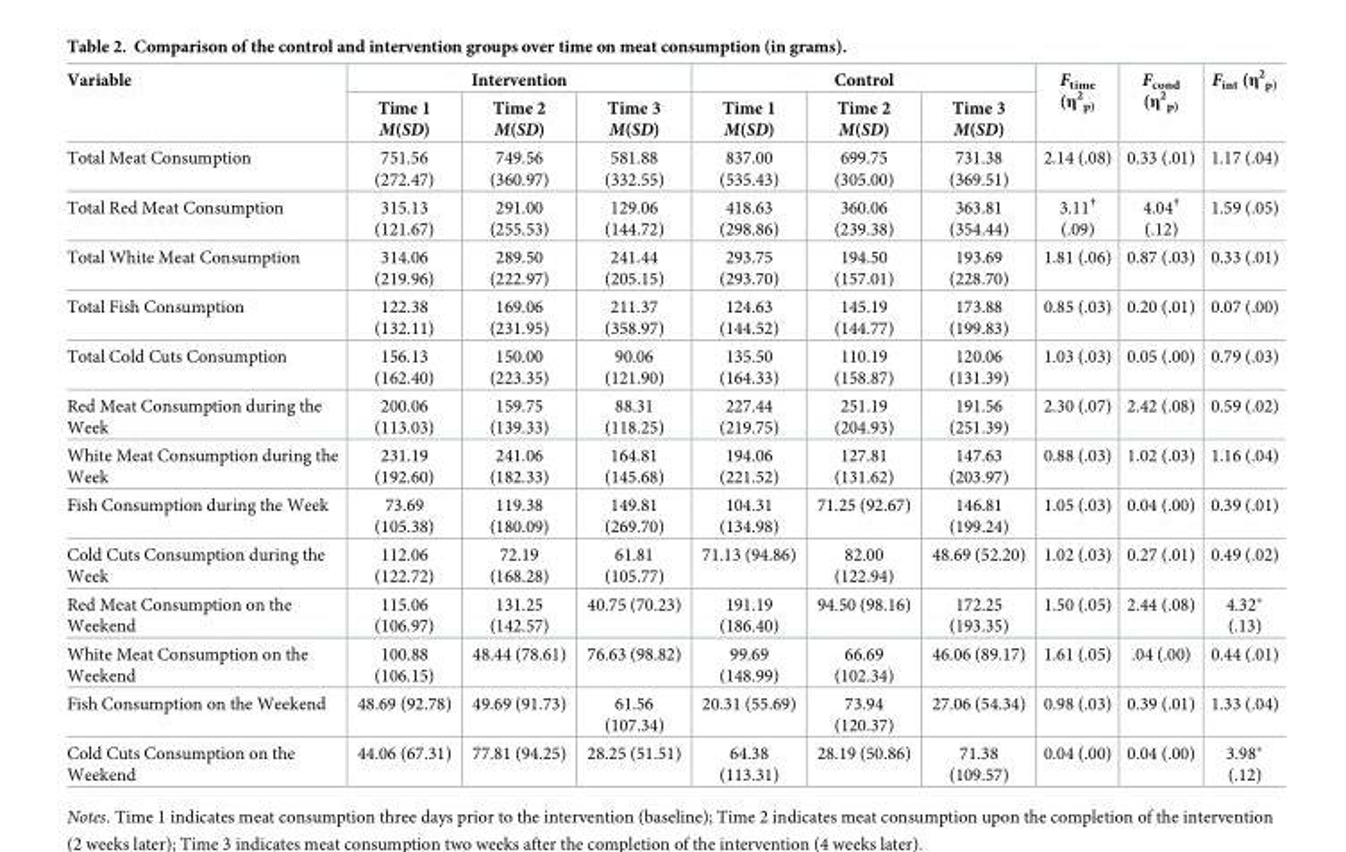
<table><thead><tr><td rowspan="2">Variable</td><td colspan="3">Intervention</td><td colspan="3">Control</td><td rowspan="2">F<sub>time</sub> (η<sup>2</sup> <sub>p)</sub></td><td rowspan="2">F<sub>cond</sub> (η<sup>2</sup> <sub>p)</sub></td><td rowspan="2">F<sub>int</sub> (η<sup>2</sup> <sub>p)</sub></td></tr><tr><td>Time 1 M(SD)</td><td>Time 2 M(SD)</td><td>Time 3 M(SD)</td><td>Time 1 M(SD)</td><td>Time 2 M(SD)</td><td>Time 3 M(SD)</td></tr></thead><tbody><tr><td>Total Meat Consumption</td><td>751.56 (272.47)</td><td>749.56 (360.97)</td><td>581.88 (332.55)</td><td>837.00 (535.43)</td><td>699.75 (305.00)</td><td>731.38 (369.51)</td><td>2.14 (.08)</td><td>0.33 (.01)</td><td>1.17 (.04)</td></tr><tr><td>Total Red Meat Consumption</td><td>315.13 (121.67)</td><td>291.00 (255.53)</td><td>129.06 (144.72)</td><td>418.63 (298.86)</td><td>360.06 (239.38)</td><td>363.81 (354.44)</td><td>3.11<sup>†</sup> (.09)</td><td>4.04<sup>†</sup> (.12)</td><td>1.59 (.05)</td></tr><tr><td>Total White Meat Consumption</td><td>314.06 (219.96)</td><td>289.50 (222.97)</td><td>241.44 (205.15)</td><td>293.75 (293.70)</td><td>194.50 (157.01)</td><td>193.69 (228.70)</td><td>1.81 (.06)</td><td>0.87 (.03)</td><td>0.33 (.01)</td></tr><tr><td>Total Fish Consumption</td><td>122.38 (132.11)</td><td>169.06 (231.95)</td><td>211.37 (358.97)</td><td>124.63 (144.52)</td><td>145.19 (144.77)</td><td>173.88 (199.83)</td><td>0.85 (.03)</td><td>0.20 (.01)</td><td>0.07 (.00)</td></tr><tr><td>Total Cold Cuts Consumption</td><td>156.13 (162.40)</td><td>150.00 (223.35)</td><td>90.06 (121.90)</td><td>135.50 (164.33)</td><td>110.19 (158.87)</td><td>120.06 (131.39)</td><td>1.03 (.03)</td><td>0.05 (.00)</td><td>0.79 (.03)</td></tr><tr><td>Red Meat Consumption during the Week</td><td>200.06 (113.03)</td><td>159.75 (139.33)</td><td>88.31 (118.25)</td><td>227.44 (219.75)</td><td>251.19 (204.93)</td><td>191.56 (251.39)</td><td>2.30 (.07)</td><td>2.42 (.08)</td><td>0.59 (.02)</td></tr><tr><td>White Meat Consumption during the Week</td><td>231.19 (192.60)</td><td>241.06 (182.33)</td><td>164.81 (145.68)</td><td>194.06 (221.52)</td><td>127.81 (131.62)</td><td>147.63 (203.97)</td><td>0.88 (.03)</td><td>1.02 (.03)</td><td>1.16 (.04)</td></tr><tr><td>Fish Consumption during the Week</td><td>73.69 (105.38)</td><td>119.38 (180.09)</td><td>149.81 (269.70)</td><td>104.31 (134.98)</td><td>71.25 (92.67)</td><td>146.81 (199.24)</td><td>1.05 (.03)</td><td>0.04 (.00)</td><td>0.39 (.01)</td></tr><tr><td>Cold Cuts Consumption during the Week</td><td>112.06 (122.72)</td><td>72.19 (168.28)</td><td>61.81 (105.77)</td><td>71.13 (94.86)</td><td>82.00 (122.94)</td><td>48.69 (52.20)</td><td>1.02 (.03)</td><td>0.27 (.01)</td><td>0.49 (.02)</td></tr><tr><td>Red Meat Consumption on the Weekend</td><td>115.06 (106.97)</td><td>131.25 (142.57)</td><td>40.75 (70.23)</td><td>191.19 (186.40)</td><td>94.50 (98.16)</td><td>172.25 (193.35)</td><td>1.50 (.05)</td><td>2.44 (.08)</td><td>4.32* (.13)</td></tr><tr><td>White Meat Consumption on the Weekend</td><td>100.88 (106.15)</td><td>48.44 (78.61)</td><td>76.63 (98.82)</td><td>99.69 (148.99)</td><td>66.69 (102.34)</td><td>46.06 (89.17)</td><td>1.61 (.05)</td><td>.04 (.00)</td><td>0.44 (.01)</td></tr><tr><td>Fish Consumption on the Weekend</td><td>48.69 (92.78)</td><td>49.69 (91.73)</td><td>61.56 (107.34)</td><td>20.31 (55.69)</td><td>73.94 (120.37)</td><td>27.06 (54.34)</td><td>0.98 (.03)</td><td>0.39 (.01)</td><td>1.33 (.04)</td></tr><tr><td>Cold Cuts Consumption on the Weekend</td><td>44.06 (67.31)</td><td>77.81 (94.25)</td><td>28.25 (51.51)</td><td>64.38 (113.31)</td><td>28.19 (50.86)</td><td>71.38 (109.57)</td><td>0.04 (.00)</td><td>0.04 (.00)</td><td>3.98* (.12)</td></tr></tbody></table>